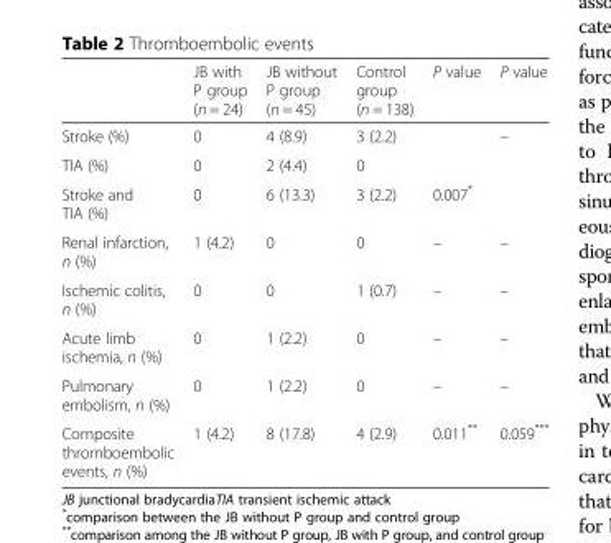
<table><thead><tr><td></td><td>JB with P group (n = 24)</td><td>JB without P group (n = 45)</td><td>Control group (n = 138)</td><td>P value</td><td>P value</td></tr></thead><tbody><tr><td>Stroke (%)</td><td>0</td><td>4 (8.9)</td><td>3 (2.2)</td><td></td><td>–</td></tr><tr><td>TIA (%)</td><td>0</td><td>2 (4.4)</td><td>0</td><td></td><td></td></tr><tr><td>Stroke and TIA (%)</td><td>0</td><td>6 (13.3)</td><td>3 (2.2)</td><td>0.007*</td><td></td></tr><tr><td>Renal infarction, n (%)</td><td>1 (4.2)</td><td>0</td><td>0</td><td>–</td><td>–</td></tr><tr><td>Ischemic colitis, n (%)</td><td>0</td><td>0</td><td>1 (0.7)</td><td>–</td><td>–</td></tr><tr><td>Acute limb ischemia, n (%)</td><td>0</td><td>1 (2.2)</td><td>0</td><td>–</td><td>–</td></tr><tr><td>Pulmonary embolism, n (%)</td><td>0</td><td>1 (2.2)</td><td>0</td><td>–</td><td>–</td></tr><tr><td>Composite thromboembolic events, n (%)</td><td>1 (4.2)</td><td>8 (17.8)</td><td>4 (2.9)</td><td>0.011**</td><td>0.059***</td></tr></tbody></table>